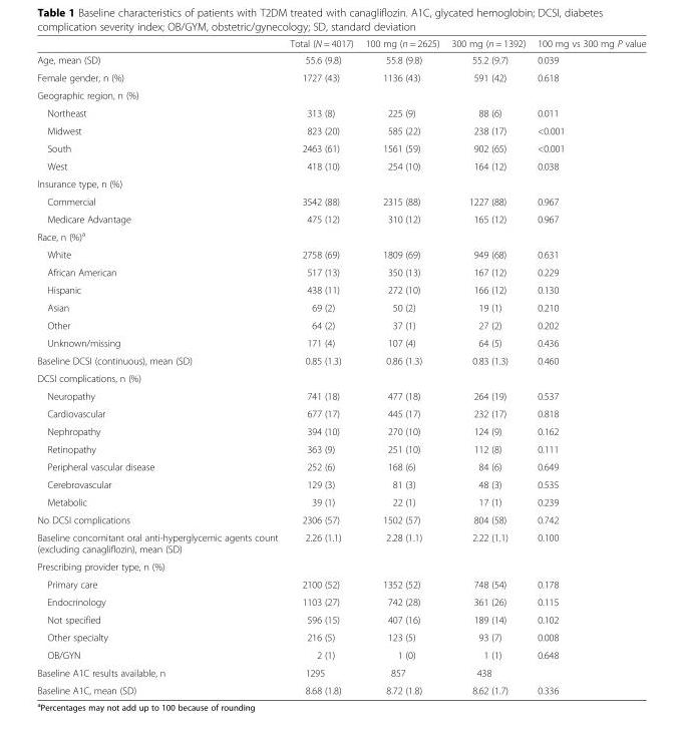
<table><thead><tr><td></td><td>Total (N = 4017)</td><td>100 mg (n = 2625)</td><td>300 mg (n = 1392)</td><td>100 mg vs 300 mg P value</td></tr></thead><tbody><tr><td>Age, mean (SD)</td><td>55.6 (9.8)</td><td>55.8 (9.8)</td><td>55.2 (9.7)</td><td>0.039</td></tr><tr><td>Female gender, n (%)</td><td>1727 (43)</td><td>1136 (43)</td><td>591 (42)</td><td>0.618</td></tr><tr><td colspan="5">Geographic region, n (%)</td></tr><tr><td>Northeast</td><td>313 (8)</td><td>225 (9)</td><td>88 (6)</td><td>0.011</td></tr><tr><td>Midwest</td><td>823 (20)</td><td>585 (22)</td><td>238 (17)</td><td>&lt;0.001</td></tr><tr><td>South</td><td>2463 (61)</td><td>1561 (59)</td><td>902 (65)</td><td>&lt;0.001</td></tr><tr><td>West</td><td>418 (10)</td><td>254 (10)</td><td>164 (12)</td><td>0.038</td></tr><tr><td colspan="5">Insurance type, n (%)</td></tr><tr><td>Commercial</td><td>3542 (88)</td><td>2315 (88)</td><td>1227 (88)</td><td>0.967</td></tr><tr><td>Medicare Advantage</td><td>475 (12)</td><td>310 (12)</td><td>165 (12)</td><td>0.967</td></tr><tr><td colspan="5">Race, n (%)<sup>a</sup></td></tr><tr><td>White</td><td>2758 (69)</td><td>1809 (69)</td><td>949 (68)</td><td>0.631</td></tr><tr><td>African American</td><td>517 (13)</td><td>350 (13)</td><td>167 (12)</td><td>0.229</td></tr><tr><td>Hispanic</td><td>438 (11)</td><td>272 (10)</td><td>166 (12)</td><td>0.130</td></tr><tr><td>Asian</td><td>69 (2)</td><td>50 (2)</td><td>19 (1)</td><td>0.210</td></tr><tr><td>Other</td><td>64 (2)</td><td>37 (1)</td><td>27 (2)</td><td>0.202</td></tr><tr><td>Unknown/missing</td><td>171 (4)</td><td>107 (4)</td><td>64 (5)</td><td>0.436</td></tr><tr><td>Baseline DCSI (continuous), mean (SD)</td><td>0.85 (1.3)</td><td>0.86 (1.3)</td><td>0.83 (1.3)</td><td>0.460</td></tr><tr><td colspan="5">DCSI complications, n (%)</td></tr><tr><td>Neuropathy</td><td>741 (18)</td><td>477 (18)</td><td>264 (19)</td><td>0.537</td></tr><tr><td>Cardiovascular</td><td>677 (17)</td><td>445 (17)</td><td>232 (17)</td><td>0.818</td></tr><tr><td>Nephropathy</td><td>394 (10)</td><td>270 (10)</td><td>124 (9)</td><td>0.162</td></tr><tr><td>Retinopathy</td><td>363 (9)</td><td>251 (10)</td><td>112 (8)</td><td>0.111</td></tr><tr><td>Peripheral vascular disease</td><td>252 (6)</td><td>168 (6)</td><td>84 (6)</td><td>0.649</td></tr><tr><td>Cerebrovascular</td><td>129 (3)</td><td>81 (3)</td><td>48 (3)</td><td>0.535</td></tr><tr><td>Metabolic</td><td>39 (1)</td><td>22 (1)</td><td>17 (1)</td><td>0.239</td></tr><tr><td>No DCSI complications</td><td>2306 (57)</td><td>1502 (57)</td><td>804 (58)</td><td>0.742</td></tr><tr><td>Baseline concomitant oral anti-hyperglycemic agents count (excluding canagliflozin), mean (SD)</td><td>2.26 (1.1)</td><td>2.28 (1.1)</td><td>2.22 (1.1)</td><td>0.100</td></tr><tr><td colspan="5">Prescribing provider type, n (%)</td></tr><tr><td>Primary care</td><td>2100 (52)</td><td>1352 (52)</td><td>748 (54)</td><td>0.178</td></tr><tr><td>Endocrinology</td><td>1103 (27)</td><td>742 (28)</td><td>361 (26)</td><td>0.115</td></tr><tr><td>Not specified</td><td>596 (15)</td><td>407 (16)</td><td>189 (14)</td><td>0.102</td></tr><tr><td>Other specialty</td><td>216 (5)</td><td>123 (5)</td><td>93 (7)</td><td>0.008</td></tr><tr><td>OB/GYN</td><td>2 (1)</td><td>1 (0)</td><td>1 (1)</td><td>0.648</td></tr><tr><td>Baseline A1C results available, n</td><td>1295</td><td>857</td><td>438</td><td></td></tr><tr><td>Baseline A1C, mean (SD)</td><td>8.68 (1.8)</td><td>8.72 (1.8)</td><td>8.62 (1.7)</td><td>0.336</td></tr></tbody></table>